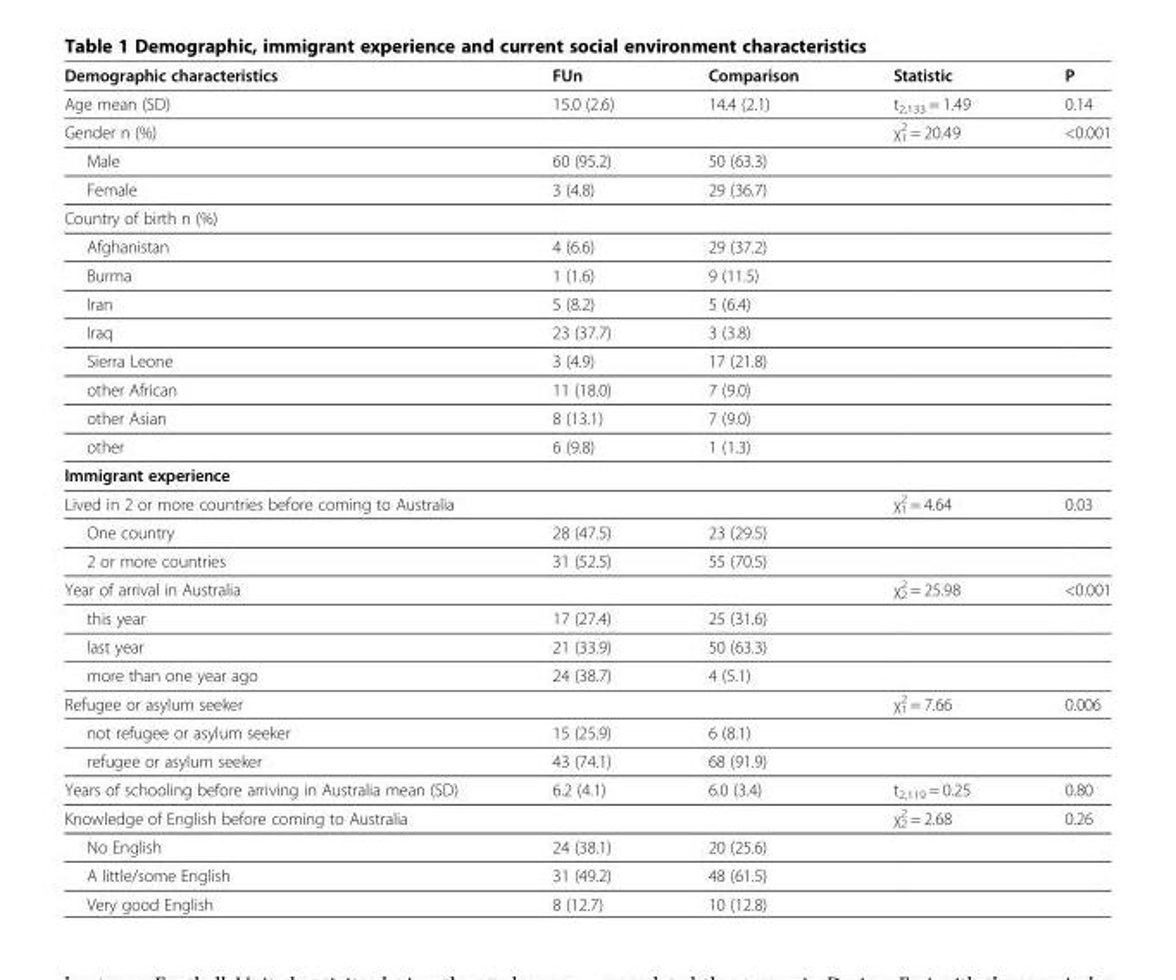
<table><thead><tr><td>Demographic characteristics</td><td>FUn</td><td>Comparison</td><td>Statistic</td><td>P</td></tr></thead><tbody><tr><td>Age mean (SD)</td><td>15.0 (2.6)</td><td>14.4 (2.1)</td><td>t<sub>2,133</sub> = 1.49</td><td>0.14</td></tr><tr><td>Gender n (%)</td><td></td><td></td><td>χ<sup>2</sup> <sub>1</sub> = 20.49</td><td>&lt;0.001</td></tr><tr><td>Male</td><td>60 (95.2)</td><td>50 (63.3)</td><td></td><td></td></tr><tr><td>Female</td><td>3 (4.8)</td><td>29 (36.7)</td><td></td><td></td></tr><tr><td colspan="5">Country of birth n (%)</td></tr><tr><td>Afghanistan</td><td>4 (6.6)</td><td>29 (37.2)</td><td></td><td></td></tr><tr><td>Burma</td><td>1 (1.6)</td><td>9 (11.5)</td><td></td><td></td></tr><tr><td>Iran</td><td>5 (8.2)</td><td>5 (6.4)</td><td></td><td></td></tr><tr><td>Iraq</td><td>23 (37.7)</td><td>3 (3.8)</td><td></td><td></td></tr><tr><td>Sierra Leone</td><td>3 (4.9)</td><td>17 (21.8)</td><td></td><td></td></tr><tr><td>other African</td><td>11 (18.0)</td><td>7 (9.0)</td><td></td><td></td></tr><tr><td>other Asian</td><td>8 (13.1)</td><td>7 (9.0)</td><td></td><td></td></tr><tr><td>other</td><td>6 (9.8)</td><td>1 (1.3)</td><td></td><td></td></tr><tr><td colspan="5">Immigrant experience</td></tr><tr><td>Lived in 2 or more countries before coming to Australia</td><td></td><td></td><td>χ<sup>2</sup> <sub>1</sub> = 4.64</td><td>0.03</td></tr><tr><td>One country</td><td>28 (47.5)</td><td>23 (29.5)</td><td></td><td></td></tr><tr><td>2 or more countries</td><td>31 (52.5)</td><td>55 (70.5)</td><td></td><td></td></tr><tr><td>Year of arrival in Australia</td><td></td><td></td><td>χ<sup>2</sup> <sub>2</sub> = 25.98</td><td>&lt;0.001</td></tr><tr><td>this year</td><td>17 (27.4)</td><td>25 (31.6)</td><td></td><td></td></tr><tr><td>last year</td><td>21 (33.9)</td><td>50 (63.3)</td><td></td><td></td></tr><tr><td>more than one year ago</td><td>24 (38.7)</td><td>4 (5.1)</td><td></td><td></td></tr><tr><td>Refugee or asylum seeker</td><td></td><td></td><td>χ<sup>2</sup> <sub>1</sub> = 7.66</td><td>0.006</td></tr><tr><td>not refugee or asylum seeker</td><td>15 (25.9)</td><td>6 (8.1)</td><td></td><td></td></tr><tr><td>refugee or asylum seeker</td><td>43 (74.1)</td><td>68 (91.9)</td><td></td><td></td></tr><tr><td>Years of schooling before arriving in Australia mean (SD)</td><td>6.2 (4.1)</td><td>6.0 (3.4)</td><td>t<sub>2,119</sub> = 0.25</td><td>0.80</td></tr><tr><td>Knowledge of English before coming to Australia</td><td></td><td></td><td>χ<sup>2</sup> <sub>2</sub> = 2.68</td><td>0.26</td></tr><tr><td>No English</td><td>24 (38.1)</td><td>20 (25.6)</td><td></td><td></td></tr><tr><td>A little/some English</td><td>31 (49.2)</td><td>48 (61.5)</td><td></td><td></td></tr><tr><td>Very good English</td><td>8 (12.7)</td><td>10 (12.8)</td><td></td><td></td></tr></tbody></table>